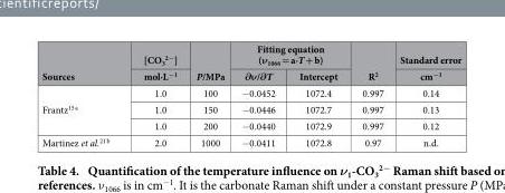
<table><thead><tr><td rowspan="2">Sources</td><td rowspan="2">[CO<sub>3</sub> <sup>2−</sup>] mol·L<sup>−1</sup></td><td rowspan="2">P/MPa</td><td colspan="2">Fitting equation (ν<sub>1066</sub> = a·T + b)</td><td rowspan="2">R<sup>2</sup></td><td rowspan="2">Standard error cm<sup>−1</sup></td></tr><tr><td>∂ν/∂T</td><td>Intercept</td></tr></thead><tbody><tr><td rowspan="3">Frantz<sup>15</sup> a</td><td>1.0</td><td>100</td><td>− 0.0452</td><td>1072.4</td><td>0.997</td><td>0.14</td></tr><tr><td>1.0</td><td>150</td><td>− 0.0446</td><td>1072.7</td><td>0.997</td><td>0.13</td></tr><tr><td>1.0</td><td>200</td><td>− 0.0440</td><td>1072.9</td><td>0.997</td><td>0.12</td></tr><tr><td>Martinez et al.<sup>21</sup> b</td><td>2.0</td><td>1000</td><td>− 0.0411</td><td>1072.8</td><td>0.97</td><td>n.d.</td></tr></tbody></table>